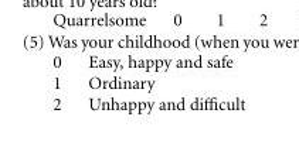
<table><tbody><tr><td>0</td><td>Easy, happy and safe</td></tr><tr><td>1</td><td>Ordinary</td></tr><tr><td>2</td><td>Unhappy and difficult</td></tr></tbody></table>